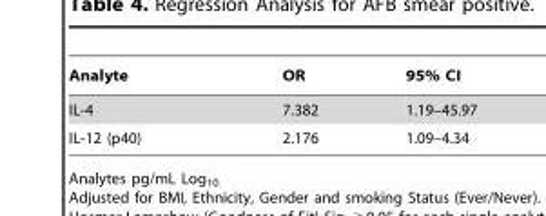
<table><thead><tr><td>Analyte</td><td>OR</td><td>95% CI</td></tr></thead><tbody><tr><td>IL-4</td><td>7.382</td><td>1.19–45.97</td></tr><tr><td>IL-12 (p40)</td><td>2.176</td><td>1.09–4.34</td></tr></tbody></table>